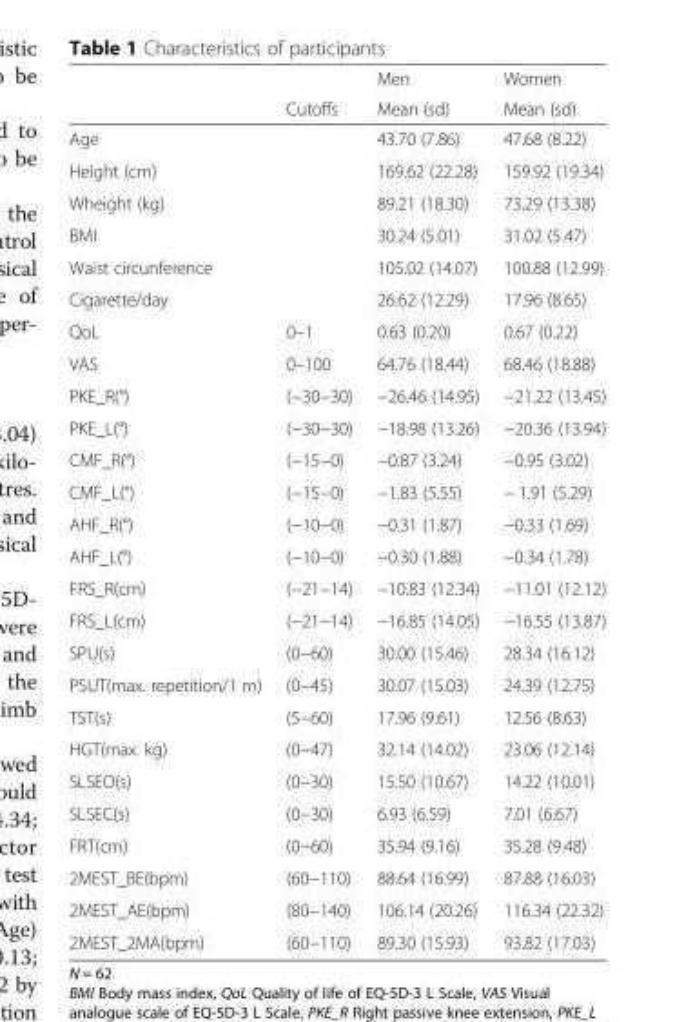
<table><thead><tr><td rowspan="2"></td><td rowspan="2">Cutoffs</td><td rowspan="2">Men Mean (sd)</td><td rowspan="2">Women Mean (sd)</td></tr><tr></tr></thead><tbody><tr><td>Age</td><td></td><td>43.70 (7.86)</td><td>47.68 (8.22)</td></tr><tr><td>Height (cm)</td><td></td><td>169.62 (22.28)</td><td>159.92 (19.34)</td></tr><tr><td>Wheight (kg)</td><td></td><td>89.21 (18.30)</td><td>73.29 (13.38)</td></tr><tr><td>BMI</td><td></td><td>30.24 (5.01)</td><td>31.02 (5.47)</td></tr><tr><td>Waist circunference</td><td></td><td>105.02 (14.07)</td><td>100.88 (12.99)</td></tr><tr><td>Cigarette/day</td><td></td><td>26.62 (12.29)</td><td>17.96 (8.65)</td></tr><tr><td>QoL</td><td>0–1</td><td>0.63 (0.20)</td><td>0.67 (0.22)</td></tr><tr><td>VAS</td><td>0–100</td><td>64.76 (18.44)</td><td>68.46 (18.88)</td></tr><tr><td>PKE_R(°)</td><td>(−30−30)</td><td>−26.46 (14.95)</td><td>−21.22 (13.45)</td></tr><tr><td>PKE_L(°)</td><td>(−30−30)</td><td>−18.98 (13.26)</td><td>−20.36 (13.94)</td></tr><tr><td>CMF_R(°)</td><td>(−15−0)</td><td>−0.87 (3.24)</td><td>−0.95 (3.02)</td></tr><tr><td>CMF_L(°)</td><td>(−15−0)</td><td>−1.83 (5.55)</td><td>− 1.91 (5.29)</td></tr><tr><td>AHF_R(°)</td><td>(−10−0)</td><td>−0.31 (1.87)</td><td>−0.33 (1.69)</td></tr><tr><td>AHF_L(°)</td><td>(−10−0)</td><td>−0.30 (1.88)</td><td>−0.34 (1.78)</td></tr><tr><td>FRS_R(cm)</td><td>(−21−14)</td><td>−10.83 (12.34)</td><td>−11.01 (12.12)</td></tr><tr><td>FRS_L(cm)</td><td>(−21−14)</td><td>−16.85 (14.05)</td><td>−16.55 (13.87)</td></tr><tr><td>SPU(s)</td><td>(0−60)</td><td>30.00 (15.46)</td><td>28.34 (16.12)</td></tr><tr><td>PSUT(max. repetition/1 m)</td><td>(0−45)</td><td>30.07 (15.03)</td><td>24.39 (12.75)</td></tr><tr><td>TST(s)</td><td>(5−60)</td><td>17.96 (9.61)</td><td>12.56 (8.63)</td></tr><tr><td>HGT(max. kg)</td><td>(0−47)</td><td>32.14 (14.02)</td><td>23.06 (12.14)</td></tr><tr><td>SLSEO(s)</td><td>(0−30)</td><td>15.50 (10.67)</td><td>14.22 (10.01)</td></tr><tr><td>SLSEC(s)</td><td>(0−30)</td><td>6.93 (6.59)</td><td>7.01 (6.67)</td></tr><tr><td>FRT(cm)</td><td>(0−60)</td><td>35.94 (9.16)</td><td>35.28 (9.48)</td></tr><tr><td>2MEST_BE(bpm)</td><td>(60−110)</td><td>88.64 (16.99)</td><td>87.88 (16.03)</td></tr><tr><td>2MEST_AE(bpm)</td><td>(80−140)</td><td>106.14 (20.26)</td><td>116.34 (22.32)</td></tr><tr><td>2MEST_2MA(bpm)</td><td>(60−110)</td><td>89.30 (15.93)</td><td>93.82 (17.03)</td></tr></tbody></table>